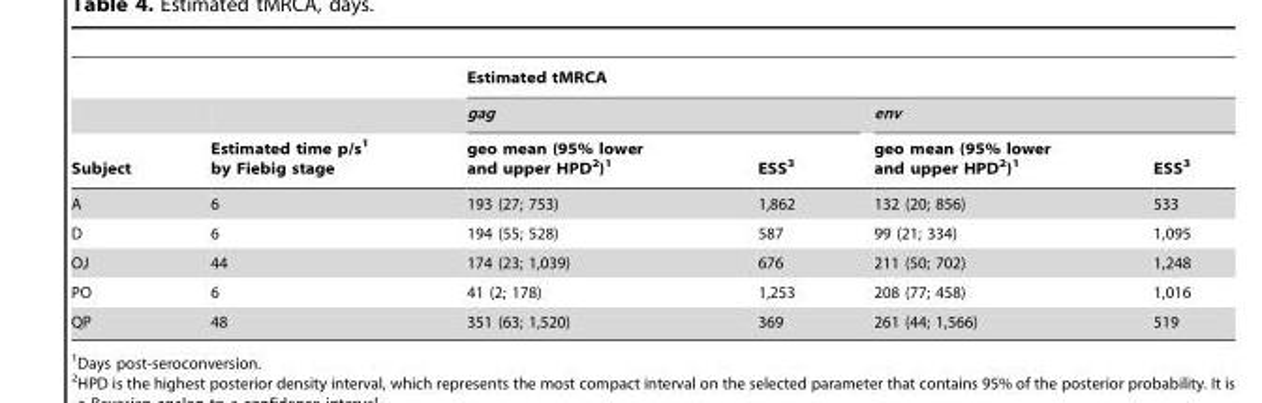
<table><thead><tr><td rowspan="3">Subject</td><td rowspan="3">Estimated time p/s<sup>1</sup> by Fiebig stage</td><td colspan="4">Estimated tMRCA</td></tr><tr><td colspan="2">gag</td><td colspan="2">env</td></tr><tr><td>geo mean (95% lower and upper HPD<sup>2</sup>)<sup>1</sup></td><td>ESS<sup>3</sup></td><td>geo mean (95% lower and upper HPD<sup>2</sup>)<sup>1</sup></td><td>ESS<sup>3</sup></td></tr></thead><tbody><tr><td>A</td><td>6</td><td>193 (27; 753)</td><td>1,862</td><td>132 (20; 856)</td><td>533</td></tr><tr><td>D</td><td>6</td><td>194 (55; 528)</td><td>587</td><td>99 (21; 334)</td><td>1,095</td></tr><tr><td>OJ</td><td>44</td><td>174 (23; 1,039)</td><td>676</td><td>211 (50; 702)</td><td>1,248</td></tr><tr><td>PO</td><td>6</td><td>41 (2; 178)</td><td>1,253</td><td>208 (77; 458)</td><td>1,016</td></tr><tr><td>QP</td><td>48</td><td>351 (63; 1,520)</td><td>369</td><td>261 (44; 1,566)</td><td>519</td></tr></tbody></table>